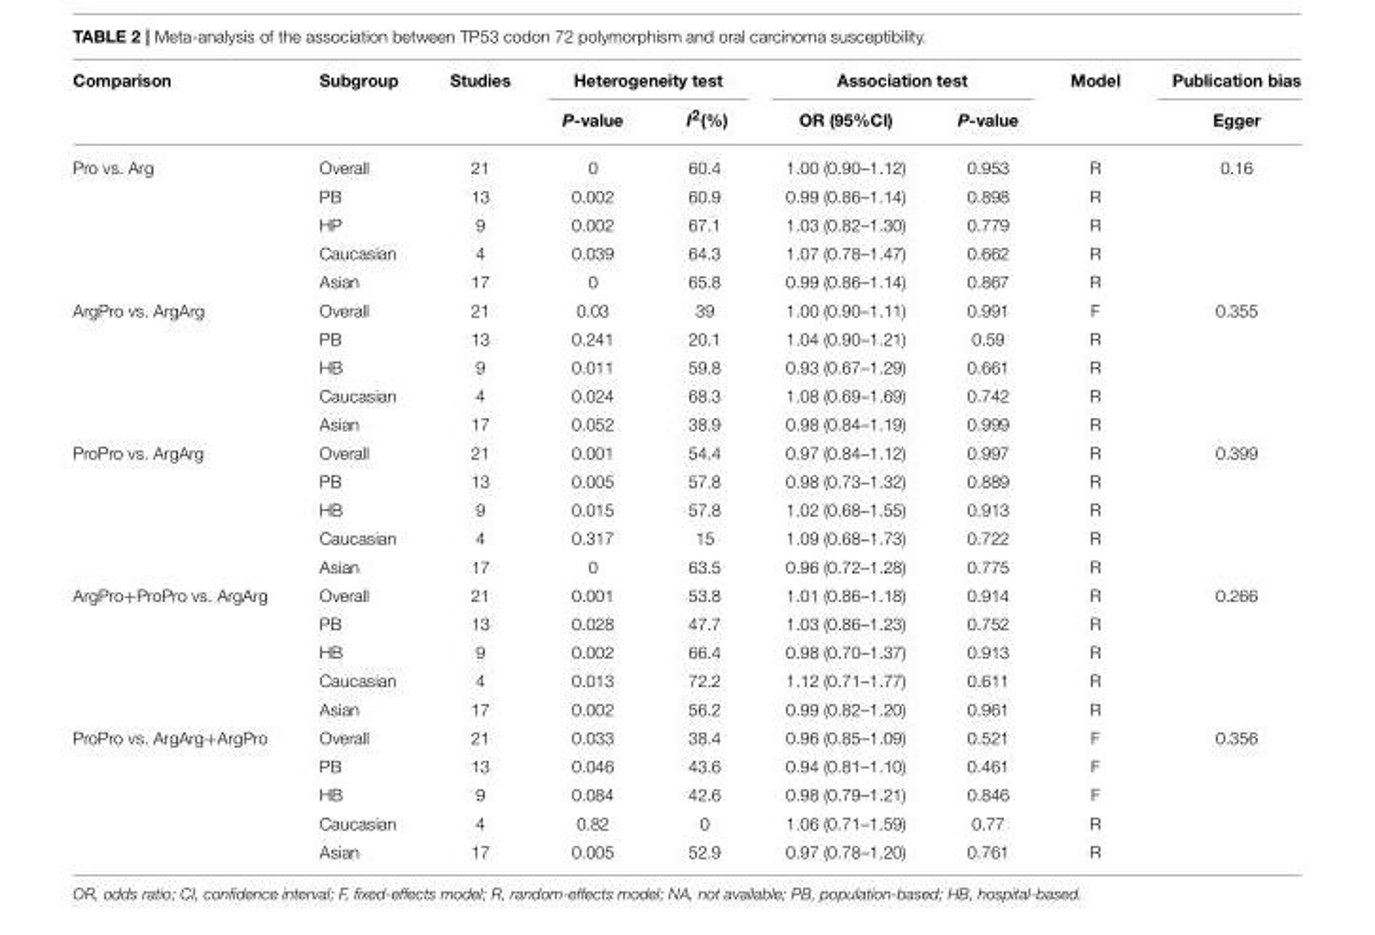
<table><thead><tr><td rowspan="2">Comparison</td><td rowspan="2">Subgroup</td><td rowspan="2">Studies</td><td colspan="2">Heterogeneity test</td><td colspan="2">Association test</td><td rowspan="2">Model</td><td rowspan="2">Publication bias Egger</td></tr><tr><td>P-value</td><td>I<sup>2</sup>(%)</td><td>OR (95%CI)</td><td>P-value</td></tr></thead><tbody><tr><td rowspan="5">Pro vs. Arg</td><td>Overall</td><td>21</td><td>0</td><td>60.4</td><td>1.00 (0.90–1.12)</td><td>0.953</td><td>R</td><td>0.16</td></tr><tr><td>PB</td><td>13</td><td>0.002</td><td>60.9</td><td>0.99 (0.86–1.14)</td><td>0.898</td><td>R</td><td></td></tr><tr><td>HP</td><td>9</td><td>0.002</td><td>67.1</td><td>1.03 (0.82–1.30)</td><td>0.779</td><td>R</td><td></td></tr><tr><td>Caucasian</td><td>4</td><td>0.039</td><td>64.3</td><td>1.07 (0.78–1.47)</td><td>0.662</td><td>R</td><td></td></tr><tr><td>Asian</td><td>17</td><td>0</td><td>65.8</td><td>0.99 (0.86–1.14)</td><td>0.867</td><td>R</td><td></td></tr><tr><td rowspan="5">ArgPro vs. ArgArg</td><td>Overall</td><td>21</td><td>0.03</td><td>39</td><td>1.00 (0.90–1.11)</td><td>0.991</td><td>F</td><td>0.355</td></tr><tr><td>PB</td><td>13</td><td>0.241</td><td>20.1</td><td>1.04 (0.90–1.21)</td><td>0.59</td><td>R</td><td></td></tr><tr><td>HB</td><td>9</td><td>0.011</td><td>59.8</td><td>0.93 (0.67–1.29)</td><td>0.661</td><td>R</td><td></td></tr><tr><td>Caucasian</td><td>4</td><td>0.024</td><td>68.3</td><td>1.08 (0.69–1.69)</td><td>0.742</td><td>R</td><td></td></tr><tr><td>Asian</td><td>17</td><td>0.052</td><td>38.9</td><td>0.98 (0.84–1.19)</td><td>0.999</td><td>R</td><td></td></tr><tr><td rowspan="5">ProPro vs. ArgArg</td><td>Overall</td><td>21</td><td>0.001</td><td>54.4</td><td>0.97 (0.84–1.12)</td><td>0.997</td><td>R</td><td>0.399</td></tr><tr><td>PB</td><td>13</td><td>0.005</td><td>57.8</td><td>0.98 (0.73–1.32)</td><td>0.889</td><td>R</td><td></td></tr><tr><td>HB</td><td>9</td><td>0.015</td><td>57.8</td><td>1.02 (0.68–1.55)</td><td>0.913</td><td>R</td><td></td></tr><tr><td>Caucasian</td><td>4</td><td>0.317</td><td>15</td><td>1.09 (0.68–1.73)</td><td>0.722</td><td>R</td><td></td></tr><tr><td>Asian</td><td>17</td><td>0</td><td>63.5</td><td>0.96 (0.72–1.28)</td><td>0.775</td><td>R</td><td></td></tr><tr><td rowspan="5">ArgPro+ProPro vs. ArgArg</td><td>Overall</td><td>21</td><td>0.001</td><td>53.8</td><td>1.01 (0.86–1.18)</td><td>0.914</td><td>R</td><td>0.266</td></tr><tr><td>PB</td><td>13</td><td>0.028</td><td>47.7</td><td>1.03 (0.86–1.23)</td><td>0.752</td><td>R</td><td></td></tr><tr><td>HB</td><td>9</td><td>0.002</td><td>66.4</td><td>0.98 (0.70–1.37)</td><td>0.913</td><td>R</td><td></td></tr><tr><td>Caucasian</td><td>4</td><td>0.013</td><td>72.2</td><td>1.12 (0.71–1.77)</td><td>0.611</td><td>R</td><td></td></tr><tr><td>Asian</td><td>17</td><td>0.002</td><td>56.2</td><td>0.99 (0.82–1.20)</td><td>0.961</td><td>R</td><td></td></tr><tr><td rowspan="5">ProPro vs. ArgArg+ArgPro</td><td>Overall</td><td>21</td><td>0.033</td><td>38.4</td><td>0.96 (0.85–1.09)</td><td>0.521</td><td>F</td><td>0.356</td></tr><tr><td>PB</td><td>13</td><td>0.046</td><td>43.6</td><td>0.94 (0.81–1.10)</td><td>0.461</td><td>F</td><td></td></tr><tr><td>HB</td><td>9</td><td>0.084</td><td>42.6</td><td>0.98 (0.79–1.21)</td><td>0.846</td><td>F</td><td></td></tr><tr><td>Caucasian</td><td>4</td><td>0.82</td><td>0</td><td>1.06 (0.71–1.59)</td><td>0.77</td><td>R</td><td></td></tr><tr><td>Asian</td><td>17</td><td>0.005</td><td>52.9</td><td>0.97 (0.78–1.20)</td><td>0.761</td><td>R</td><td></td></tr></tbody></table>